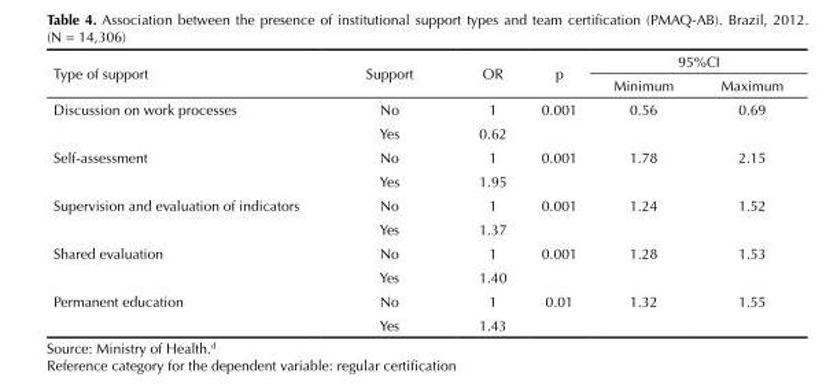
<table><thead><tr><td rowspan="2">Type of support</td><td rowspan="2">Support</td><td rowspan="2">OR</td><td rowspan="2">p</td><td colspan="2">95%CI</td></tr><tr><td>Minimum</td><td>Maximum</td></tr></thead><tbody><tr><td rowspan="2">Discussion on work processes</td><td>No</td><td>1</td><td rowspan="2">0.001</td><td rowspan="2">0.56</td><td rowspan="2">0.69</td></tr><tr><td>Yes</td><td>0.62</td></tr><tr><td rowspan="2">Self-assessment</td><td>No</td><td>1</td><td rowspan="2">0.001</td><td rowspan="2">1.78</td><td rowspan="2">2.15</td></tr><tr><td>Yes</td><td>1.95</td></tr><tr><td rowspan="2">Supervision and evaluation of indicators</td><td>No</td><td>1</td><td rowspan="2">0.001</td><td rowspan="2">1.24</td><td rowspan="2">1.52</td></tr><tr><td>Yes</td><td>1.37</td></tr><tr><td rowspan="2">Shared evaluation</td><td>No</td><td>1</td><td rowspan="2">0.001</td><td rowspan="2">1.28</td><td rowspan="2">1.53</td></tr><tr><td>Yes</td><td>1.40</td></tr><tr><td rowspan="2">Permanent education</td><td>No</td><td>1</td><td rowspan="2">0.01</td><td rowspan="2">1.32</td><td rowspan="2">1.55</td></tr><tr><td>Yes</td><td>1.43</td></tr></tbody></table>